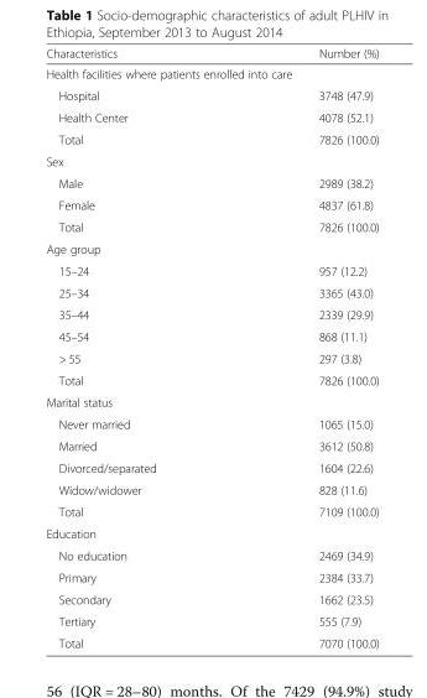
<table><thead><tr><td>Characteristics</td><td>Number (%)</td></tr></thead><tbody><tr><td colspan="2">Health facilities where patients enrolled into care</td></tr><tr><td>Hospital</td><td>3748 (47.9)</td></tr><tr><td>Health Center</td><td>4078 (52.1)</td></tr><tr><td>Total</td><td>7826 (100.0)</td></tr><tr><td colspan="2">Sex</td></tr><tr><td>Male</td><td>2989 (38.2)</td></tr><tr><td>Female</td><td>4837 (61.8)</td></tr><tr><td>Total</td><td>7826 (100.0)</td></tr><tr><td colspan="2">Age group</td></tr><tr><td>15–24</td><td>957 (12.2)</td></tr><tr><td>25–34</td><td>3365 (43.0)</td></tr><tr><td>35–44</td><td>2339 (29.9)</td></tr><tr><td>45–54</td><td>868 (11.1)</td></tr><tr><td>&gt; 55</td><td>297 (3.8)</td></tr><tr><td>Total</td><td>7826 (100.0)</td></tr><tr><td colspan="2">Marital status</td></tr><tr><td>Never married</td><td>1065 (15.0)</td></tr><tr><td>Married</td><td>3612 (50.8)</td></tr><tr><td>Divorced/separated</td><td>1604 (22.6)</td></tr><tr><td>Widow/widower</td><td>828 (11.6)</td></tr><tr><td>Total</td><td>7109 (100.0)</td></tr><tr><td colspan="2">Education</td></tr><tr><td>No education</td><td>2469 (34.9)</td></tr><tr><td>Primary</td><td>2384 (33.7)</td></tr><tr><td>Secondary</td><td>1662 (23.5)</td></tr><tr><td>Tertiary</td><td>555 (7.9)</td></tr><tr><td>Total</td><td>7070 (100.0)</td></tr></tbody></table>